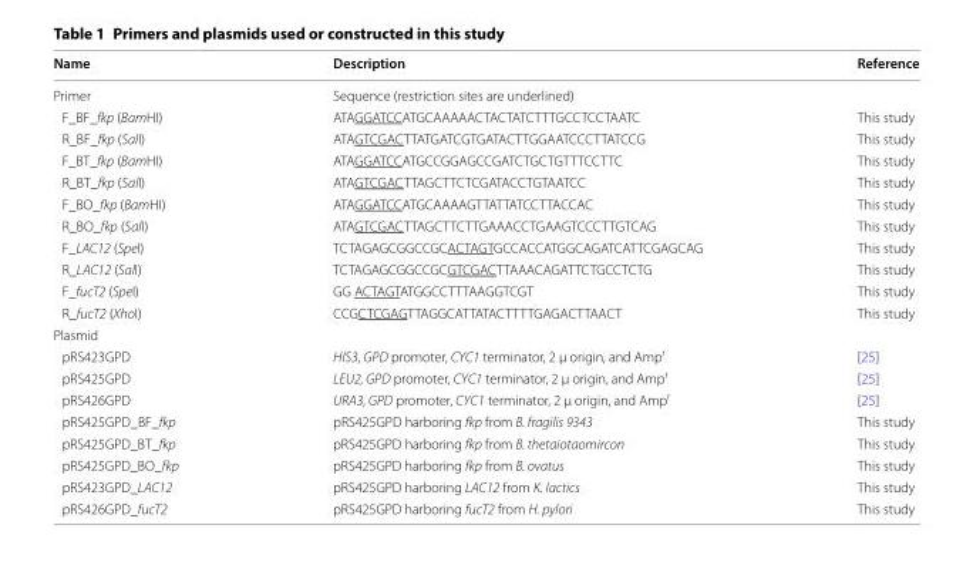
<table><thead><tr><td>Name</td><td>Description</td><td>Reference</td></tr></thead><tbody><tr><td>Primer</td><td>Sequence (restriction sites are underlined)</td><td></td></tr><tr><td>F_BF_fkp (BamHI)</td><td>ATA GGA TCC ATG CAA AAA CTA CTA TCT TTG CCT CCT AAT C</td><td>This study</td></tr><tr><td>R_BF_fkp (SalI)</td><td>ATA GTC GAC TTA TGA TCG TGA TAC TTG GAA TCC CTT ATC CG</td><td>This study</td></tr><tr><td>F_BT_fkp (BamHI)</td><td>ATA GGA TCC ATG CCG GAG CCG ATC TGC TGT TTC CTTC</td><td>This study</td></tr><tr><td>R_BT_fkp (SalI)</td><td>ATA GTC GAC TTA GCT TCT CGA TAC CTG TAA TCC</td><td>This study</td></tr><tr><td>F_BO_fkp (BamHI)</td><td>ATA GGA TCC ATG CAA AAG TTA TTA TCC TTA CCA C</td><td>This study</td></tr><tr><td>R_BO_fkp (SalI)</td><td>ATA GTC GAC TTA GCT TCT TGA AAC CTG AAG TCC CTT GTC AG</td><td>This study</td></tr><tr><td>F_LAC12 (SpeI)</td><td>TCT AGA GCG GCC GCACT AGT GCC ACC ATG GCA GAT CAT TCG AGC AG</td><td>This study</td></tr><tr><td>R_LAC12 (SalI)</td><td>TCT AGA GCG GCC GCGTC GAC TTA AAC AGA TTC TGC CTC TG</td><td>This study</td></tr><tr><td>F_fucT2 (SpeI)</td><td>GG ACT AGT ATG GCC TTT AAG GTCGT</td><td>This study</td></tr><tr><td>R_fucT2 (XhoI)</td><td>CCG CTC GAG TTA GGC ATT ATA CTT TTG AGA CTT AACT</td><td>This study</td></tr><tr><td colspan="3">Plasmid</td></tr><tr><td>pRS423GPD</td><td>HIS3, GPD promoter, CYC1 terminator, 2 µ origin, and Amp<sup>r</sup></td><td>[25]</td></tr><tr><td>pRS425GPD</td><td>LEU2, GPD promoter, CYC1 terminator, 2 µ origin, and Amp<sup>r</sup></td><td>[25]</td></tr><tr><td>pRS426GPD</td><td>URA3, GPD promoter, CYC1 terminator, 2 µ origin, and Amp<sup>r</sup></td><td>[25]</td></tr><tr><td>pRS425GPD_BF_fkp</td><td>pRS425GPD harboring fkp from B. fragilis 9343</td><td>This study</td></tr><tr><td>pRS425GPD_BT_fkp</td><td>pRS425GPD harboring fkp from B. thetaiotaomircon</td><td>This study</td></tr><tr><td>pRS425GPD_BO_fkp</td><td>pRS425GPD harboring fkp from B. ovatus</td><td>This study</td></tr><tr><td>pRS423GPD_LAC12</td><td>pRS425GPD harboring LAC12 from K. lactics</td><td>This study</td></tr><tr><td>pRS426GPD_fucT2</td><td>pRS425GPD harboring fucT2 from H. pylori</td><td>This study</td></tr></tbody></table>